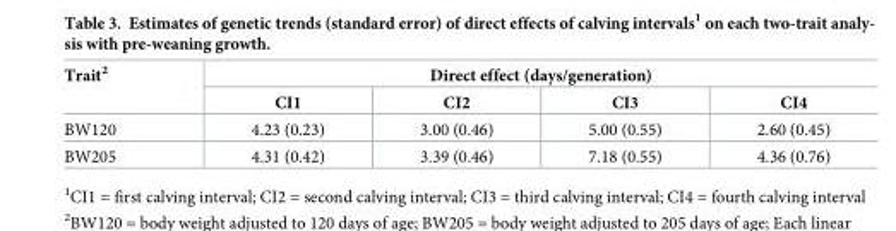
<table><thead><tr><td rowspan="2">Trait<sup>2</sup></td><td colspan="4">Direct effect (days/generation)</td></tr><tr><td>CI1</td><td>CI2</td><td>CI3</td><td>CI4</td></tr></thead><tbody><tr><td>BW120</td><td>4.23 (0.23)</td><td>3.00 (0.46)</td><td>5.00 (0.55)</td><td>2.60 (0.45)</td></tr><tr><td>BW205</td><td>4.31 (0.42)</td><td>3.39 (0.46)</td><td>7.18 (0.55)</td><td>4.36 (0.76)</td></tr></tbody></table>